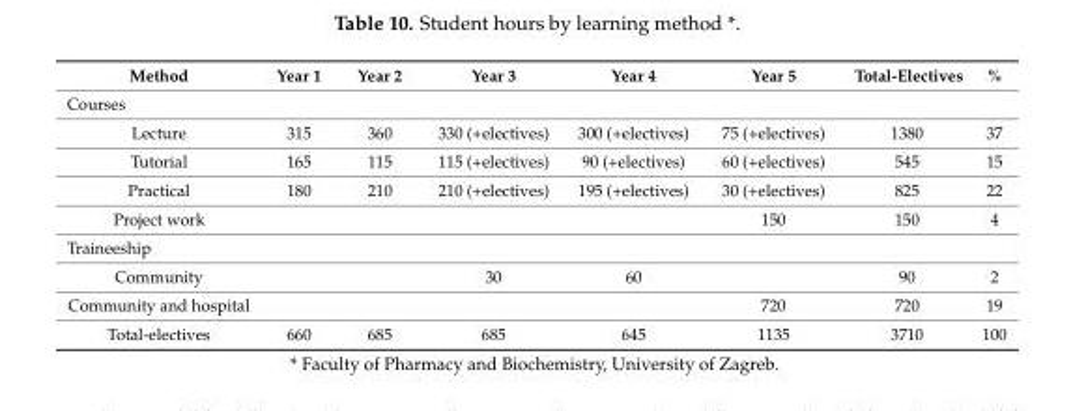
<table><thead><tr><td>Method</td><td>Year 1</td><td>Year 2</td><td>Year 3</td><td>Year 4</td><td>Year 5</td><td>Total-Electives</td><td>%</td></tr></thead><tbody><tr><td colspan="8">Courses</td></tr><tr><td>Lecture</td><td>315</td><td>360</td><td>330 (+electives)</td><td>300 (+electives)</td><td>75 (+electives)</td><td>1380</td><td>37</td></tr><tr><td>Tutorial</td><td>165</td><td>115</td><td>115 (+electives)</td><td>90 (+electives)</td><td>60 (+electives)</td><td>545</td><td>15</td></tr><tr><td>Practical</td><td>180</td><td>210</td><td>210 (+electives)</td><td>195 (+electives)</td><td>30 (+electives)</td><td>825</td><td>22</td></tr><tr><td>Project work</td><td></td><td></td><td></td><td></td><td>150</td><td>150</td><td>4</td></tr><tr><td colspan="8">Traineeship</td></tr><tr><td>Community</td><td></td><td></td><td>30</td><td>60</td><td></td><td>90</td><td>2</td></tr><tr><td>Community and hospital</td><td></td><td></td><td></td><td></td><td>720</td><td>720</td><td>19</td></tr><tr><td>Total-electives</td><td>660</td><td>685</td><td>685</td><td>645</td><td>1135</td><td>3710</td><td>100</td></tr></tbody></table>